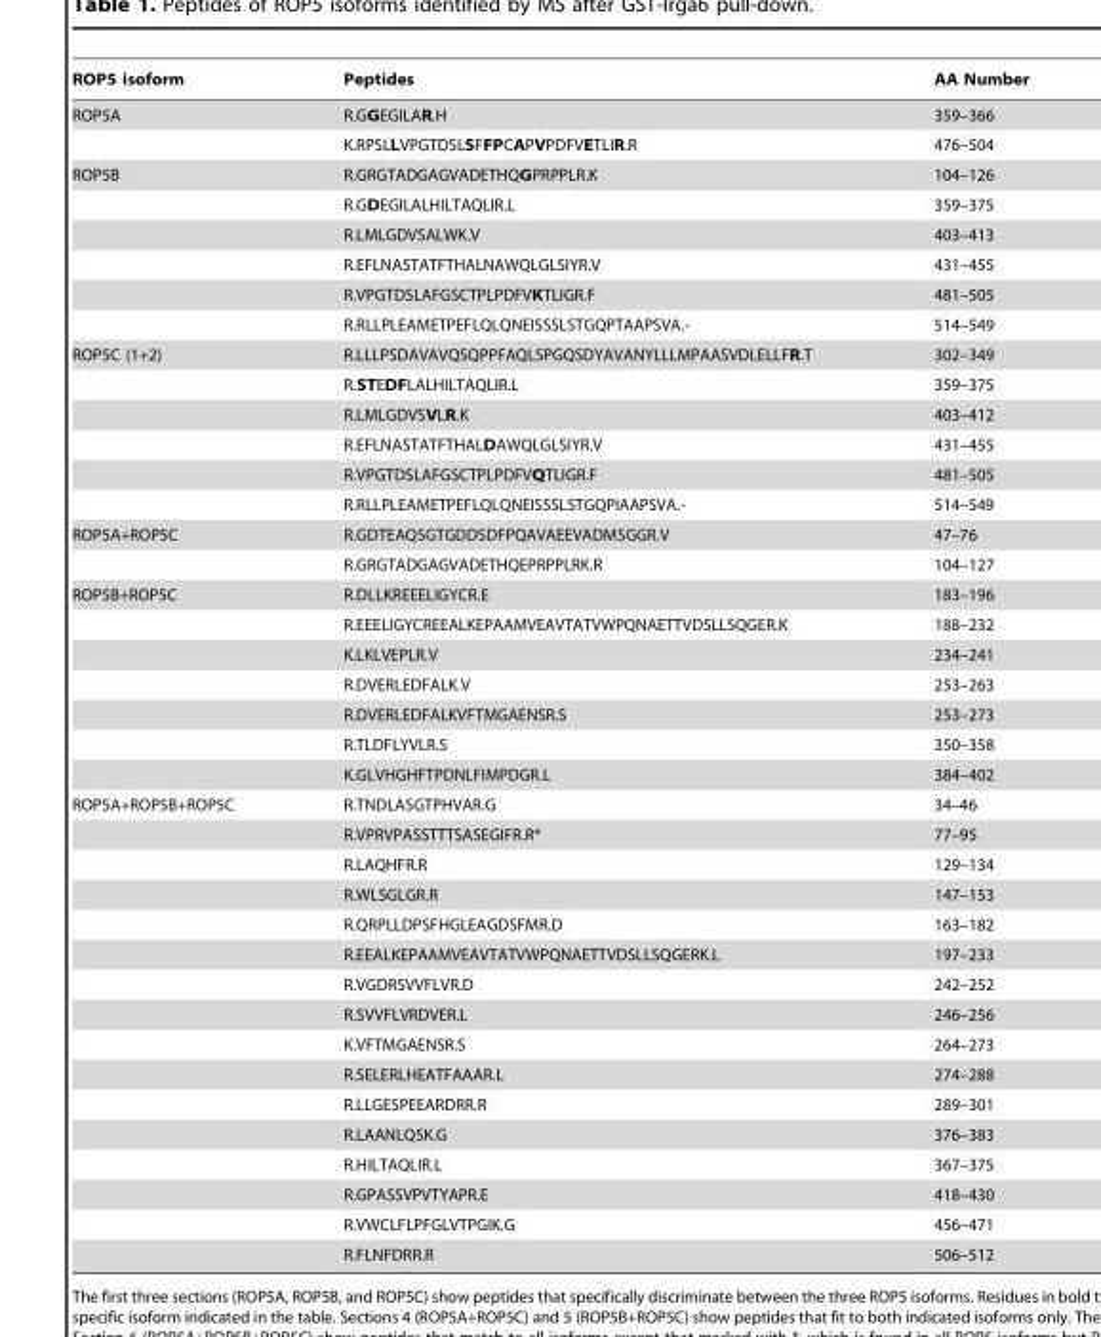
<table><thead><tr><td>ROP5 isoform</td><td>Peptides</td><td>AA Number</td></tr></thead><tbody><tr><td rowspan="2">ROP5A</td><td>R.GGEGILAR.H</td><td>359–366</td></tr><tr><td>K.RPSLLVPGTDSLSFFPCAPVPDFVETLIR.R</td><td>476–504</td></tr><tr><td rowspan="6">ROP5B</td><td>R.GRGTADGAGVADETHQGPRPPLR.K</td><td>104–126</td></tr><tr><td>R.GDEGILALHILTAQLIR.L</td><td>359–375</td></tr><tr><td>R.LMLGDVSALWK.V</td><td>403–413</td></tr><tr><td>R.EFLNASTATFTHALNAWQLGLSIYR.V</td><td>431–455</td></tr><tr><td>R.VPGTDSLAFGSCTPLPDFVKTLIGR.F</td><td>481–505</td></tr><tr><td>R.RLLPLEAMETPEFLQLQNEISSSLSTGQPTAAPSVA.-</td><td>514–549</td></tr><tr><td rowspan="6">ROP5C (1+2)</td><td>R.LLLPSDAVAVQSQPPFAQLSPGQSDYAVANYLLLMPAASVDLELLFR.T</td><td>302–349</td></tr><tr><td>R.STEDFLALHILTAQLIR.L</td><td>359–375</td></tr><tr><td>R.LMLGDVSVLR.K</td><td>403–412</td></tr><tr><td>R.EFLNASTATFTHALDAWQLGLSIYR.V</td><td>431–455</td></tr><tr><td>R.VPGTDSLAFGSCTPLPDFVQTLIGR.F</td><td>481–505</td></tr><tr><td>R.RLLPLEAMETPEFLQLQNEISSSLSTGQPIAAPSVA.-</td><td>514–549</td></tr><tr><td rowspan="2">ROP5A+ROP5C</td><td>R.GDTEAQSGTGDDSDFPQAVAEEVADMSGGR.V</td><td>47–76</td></tr><tr><td>R.GRGTADGAGVADETHQEPRPPLRK.R</td><td>104–127</td></tr><tr><td rowspan="7">ROP5B+ROP5C</td><td>R.DLLKREEELIGYCR.E</td><td>183–196</td></tr><tr><td>R.EEELIGYCREEALKEPAAMVEAVTATVWPQNAETTVDSLLSQGER.K</td><td>188–232</td></tr><tr><td>K.LKLVEPLR.V</td><td>234–241</td></tr><tr><td>R.DVERLEDFALK.V</td><td>253–263</td></tr><tr><td>R.DVERLEDFALKVFTMGAENSR.S</td><td>253–273</td></tr><tr><td>R.TLDFLYVLR.S</td><td>350–358</td></tr><tr><td>K.GLVHGHFTPDNLFIMPDGR.L</td><td>384–402</td></tr><tr><td rowspan="16">ROP5A+ROP5B+ROP5C</td><td>R.TNDLASGTPHVAR.G</td><td>34–46</td></tr><tr><td>R.VPRVPASSTTTSASEGIFR.R*</td><td>77–95</td></tr><tr><td>R.LAQHFR.R</td><td>129–134</td></tr><tr><td>R.WLSGLGR.R</td><td>147–153</td></tr><tr><td>R.QRPLLDPSFHGLEAGDSFMR.D</td><td>163–182</td></tr><tr><td>R.EEALKEPAAMVEAVTATVWPQNAETTVDSLLSQGERK.L</td><td>197–233</td></tr><tr><td>R.VGDRSVVFLVR.D</td><td>242–252</td></tr><tr><td>R.SVVFLVRDVER.L</td><td>246–256</td></tr><tr><td>K.VFTMGAENSR.S</td><td>264–273</td></tr><tr><td>R.SELERLHEATFAAAR.L</td><td>274–288</td></tr><tr><td>R.LLGESPEEARDRR.R</td><td>289–301</td></tr><tr><td>R.LAANLQSK.G</td><td>376–383</td></tr><tr><td>R.HILTAQLIR.L</td><td>367–375</td></tr><tr><td>R.GPASSVPVTYAPR.E</td><td>418–430</td></tr><tr><td>R.VWCLFLPFGLVTPGIK.G</td><td>456–471</td></tr><tr><td>R.FLNFDRR.R</td><td>506–512</td></tr></tbody></table>